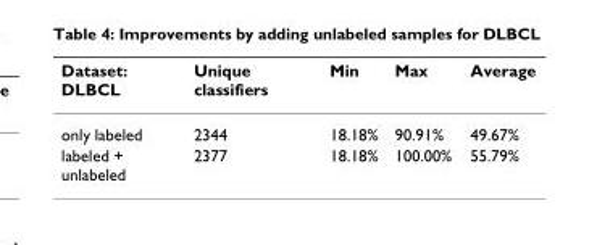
<table><thead><tr><td>Dataset: DLBCL</td><td>Unique classifiers</td><td>Min</td><td>Max</td><td>Average</td></tr></thead><tbody><tr><td>only labeled</td><td>2344</td><td>18.18%</td><td>90.91%</td><td>49.67%</td></tr><tr><td>labeled + unlabeled</td><td>2377</td><td>18.18%</td><td>100.00%</td><td>55.79%</td></tr></tbody></table>